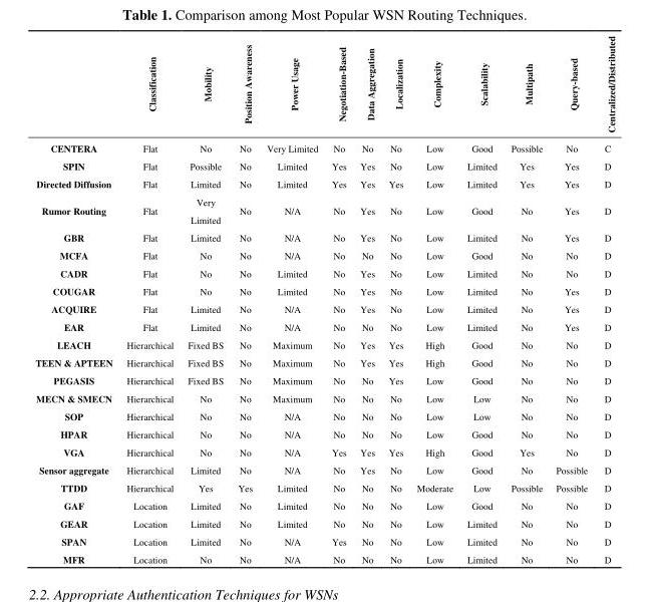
<table><thead><tr><td></td><td>Classification</td><td>Mobility</td><td>Position Awareness</td><td>Power Usage</td><td>Negotiation-Based</td><td>Data Aggregation</td><td>Localization</td><td>Complexity</td><td>Scalability</td><td>Multipath</td><td>Query-based</td><td>Centralized/Distributed</td></tr></thead><tbody><tr><td>CENTERA</td><td>Flat</td><td>No</td><td>No</td><td>Very Limited</td><td>No</td><td>No</td><td>No</td><td>Low</td><td>Good</td><td>Possible</td><td>No</td><td>C</td></tr><tr><td>SPIN</td><td>Flat</td><td>Possible</td><td>No</td><td>Limited</td><td>Yes</td><td>Yes</td><td>No</td><td>Low</td><td>Limited</td><td>Yes</td><td>Yes</td><td>D</td></tr><tr><td>Directed Diffusion</td><td>Flat</td><td>Limited</td><td>No</td><td>Limited</td><td>Yes</td><td>Yes</td><td>Yes</td><td>Low</td><td>Limited</td><td>Yes</td><td>Yes</td><td>D</td></tr><tr><td>Rumor Routing</td><td>Flat</td><td>Very Limited</td><td>No</td><td>N/A</td><td>No</td><td>Yes</td><td>No</td><td>Low</td><td>Good</td><td>No</td><td>Yes</td><td>D</td></tr><tr><td>GBR</td><td>Flat</td><td>Limited</td><td>No</td><td>N/A</td><td>No</td><td>Yes</td><td>No</td><td>Low</td><td>Limited</td><td>No</td><td>Yes</td><td>D</td></tr><tr><td>MCFA</td><td>Flat</td><td>No</td><td>No</td><td>N/A</td><td>No</td><td>No</td><td>No</td><td>Low</td><td>Good</td><td>No</td><td>No</td><td>D</td></tr><tr><td>CADR</td><td>Flat</td><td>No</td><td>No</td><td>Limited</td><td>No</td><td>Yes</td><td>No</td><td>Low</td><td>Limited</td><td>No</td><td>No</td><td>D</td></tr><tr><td>COUGAR</td><td>Flat</td><td>No</td><td>No</td><td>Limited</td><td>No</td><td>Yes</td><td>No</td><td>Low</td><td>Limited</td><td>No</td><td>Yes</td><td>D</td></tr><tr><td>ACQUIRE</td><td>Flat</td><td>Limited</td><td>No</td><td>N/A</td><td>No</td><td>Yes</td><td>No</td><td>Low</td><td>Limited</td><td>No</td><td>Yes</td><td>D</td></tr><tr><td>EAR</td><td>Flat</td><td>Limited</td><td>No</td><td>N/A</td><td>No</td><td>No</td><td>No</td><td>Low</td><td>Limited</td><td>No</td><td>Yes</td><td>D</td></tr><tr><td>LEACH</td><td>Hierarchical</td><td>Fixed BS</td><td>No</td><td>Maximum</td><td>No</td><td>Yes</td><td>Yes</td><td>High</td><td>Good</td><td>No</td><td>No</td><td>D</td></tr><tr><td>TEEN &amp; APTEEN</td><td>Hierarchical</td><td>Fixed BS</td><td>No</td><td>Maximum</td><td>No</td><td>Yes</td><td>Yes</td><td>High</td><td>Good</td><td>No</td><td>No</td><td>D</td></tr><tr><td>PEGASIS</td><td>Hierarchical</td><td>Fixed BS</td><td>No</td><td>Maximum</td><td>No</td><td>No</td><td>Yes</td><td>Low</td><td>Good</td><td>No</td><td>No</td><td>D</td></tr><tr><td>MECN &amp; SMECN</td><td>Hierarchical</td><td>No</td><td>No</td><td>Maximum</td><td>No</td><td>No</td><td>No</td><td>Low</td><td>Low</td><td>No</td><td>No</td><td>D</td></tr><tr><td>SOP</td><td>Hierarchical</td><td>No</td><td>No</td><td>N/A</td><td>No</td><td>No</td><td>No</td><td>Low</td><td>Low</td><td>No</td><td>No</td><td>D</td></tr><tr><td>HPAR</td><td>Hierarchical</td><td>No</td><td>No</td><td>N/A</td><td>No</td><td>No</td><td>No</td><td>Low</td><td>Good</td><td>No</td><td>No</td><td>D</td></tr><tr><td>VGA</td><td>Hierarchical</td><td>No</td><td>No</td><td>N/A</td><td>Yes</td><td>Yes</td><td>Yes</td><td>High</td><td>Good</td><td>Yes</td><td>No</td><td>D</td></tr><tr><td>Sensor aggregate</td><td>Hierarchical</td><td>Limited</td><td>No</td><td>N/A</td><td>No</td><td>Yes</td><td>No</td><td>Low</td><td>Good</td><td>No</td><td>Possible</td><td>D</td></tr><tr><td>TTDD</td><td>Hierarchical</td><td>Yes</td><td>Yes</td><td>Limited</td><td>No</td><td>No</td><td>No</td><td>Moderate</td><td>Low</td><td>Possible</td><td>Possible</td><td>D</td></tr><tr><td>GAF</td><td>Location</td><td>Limited</td><td>No</td><td>Limited</td><td>No</td><td>No</td><td>No</td><td>Low</td><td>Good</td><td>No</td><td>No</td><td>D</td></tr><tr><td>GEAR</td><td>Location</td><td>Limited</td><td>No</td><td>Limited</td><td>No</td><td>No</td><td>No</td><td>Low</td><td>Limited</td><td>No</td><td>No</td><td>D</td></tr><tr><td>SPAN</td><td>Location</td><td>Limited</td><td>No</td><td>N/A</td><td>Yes</td><td>No</td><td>No</td><td>Low</td><td>Limited</td><td>No</td><td>No</td><td>D</td></tr><tr><td>MFR</td><td>Location</td><td>No</td><td>No</td><td>N/A</td><td>No</td><td>No</td><td>No</td><td>Low</td><td>Limited</td><td>No</td><td>No</td><td>D</td></tr></tbody></table>